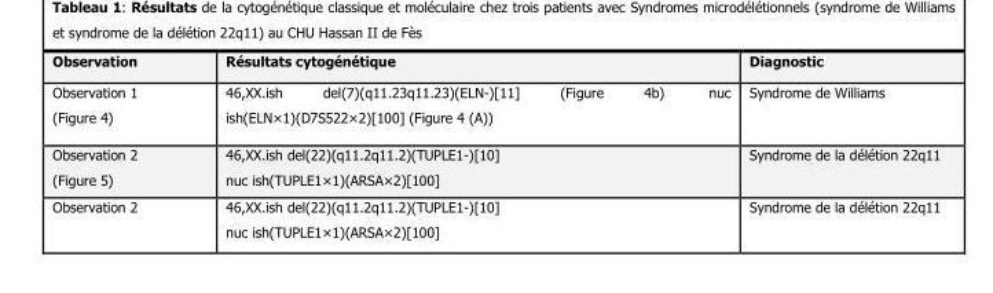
<table><thead><tr><td>Observation</td><td>Résultats cytogénétique</td><td>Diagnostic</td></tr></thead><tbody><tr><td>Observation 1 (Figure 4)</td><td>46,XX.ish del(7)(q11.23q11.23)(ELN-)[11] (Figure 4b) nuc ish(ELN×1)(D7S522×2)[100] (Figure 4 (A))</td><td>Syndrome de Williams</td></tr><tr><td>Observation 2 (Figure 5)</td><td>46,XX.ish del(22)(q11.2q11.2)(TUPLE1-)[10] nuc ish(TUPLE1×1)(ARSA×2)[100]</td><td>Syndrome de la délétion 22q11</td></tr><tr><td>Observation 2</td><td>46,XX.ish del(22)(q11.2q11.2)(TUPLE1-)[10] nuc ish(TUPLE1×1)(ARSA×2)[100]</td><td>Syndrome de la délétion 22q11</td></tr></tbody></table>